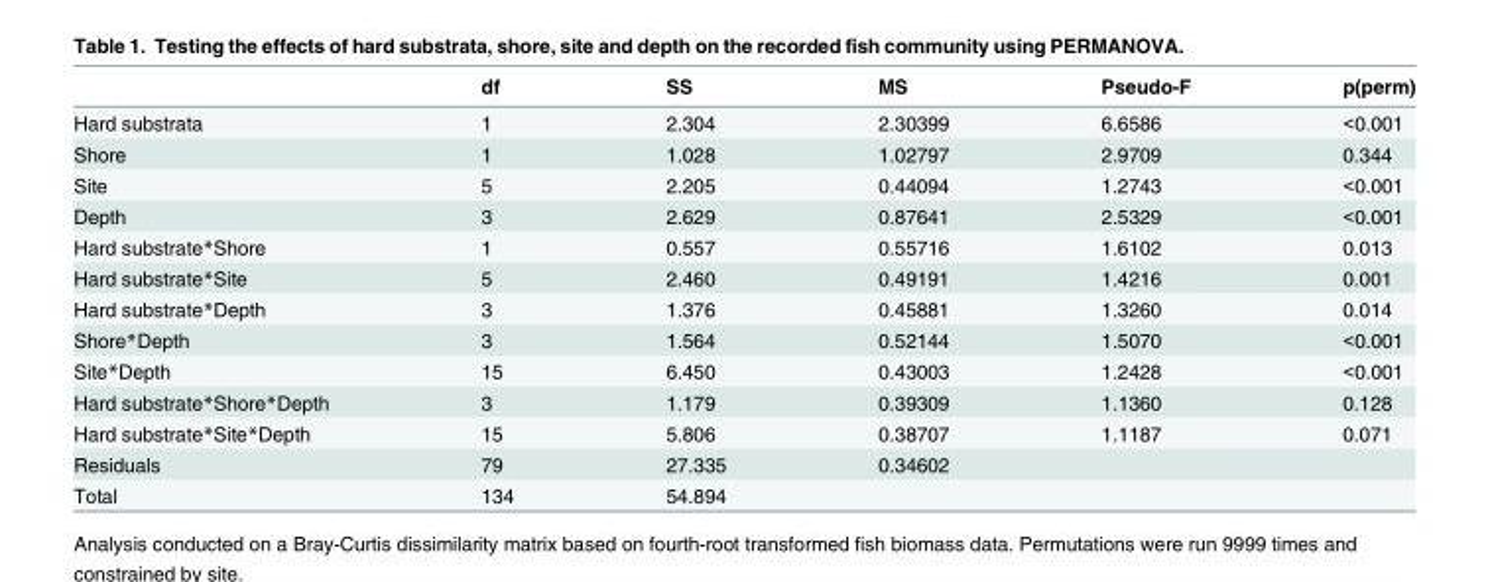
<table><thead><tr><td></td><td>df</td><td>SS</td><td>MS</td><td>Pseudo-F</td><td>p(perm)</td></tr></thead><tbody><tr><td>Hard substrata</td><td>1</td><td>2.304</td><td>2.30399</td><td>6.6586</td><td>&lt;0.001</td></tr><tr><td>Shore</td><td>1</td><td>1.028</td><td>1.02797</td><td>2.9709</td><td>0.344</td></tr><tr><td>Site</td><td>5</td><td>2.205</td><td>0.44094</td><td>1.2743</td><td>&lt;0.001</td></tr><tr><td>Depth</td><td>3</td><td>2.629</td><td>0.87641</td><td>2.5329</td><td>&lt;0.001</td></tr><tr><td>Hard substrate*Shore</td><td>1</td><td>0.557</td><td>0.55716</td><td>1.6102</td><td>0.013</td></tr><tr><td>Hard substrate*Site</td><td>5</td><td>2.460</td><td>0.49191</td><td>1.4216</td><td>0.001</td></tr><tr><td>Hard substrate*Depth</td><td>3</td><td>1.376</td><td>0.45881</td><td>1.3260</td><td>0.014</td></tr><tr><td>Shore*Depth</td><td>3</td><td>1.564</td><td>0.52144</td><td>1.5070</td><td>&lt;0.001</td></tr><tr><td>Site*Depth</td><td>15</td><td>6.450</td><td>0.43003</td><td>1.2428</td><td>&lt;0.001</td></tr><tr><td>Hard substrate*Shore*Depth</td><td>3</td><td>1.179</td><td>0.39309</td><td>1.1360</td><td>0.128</td></tr><tr><td>Hard substrate*Site*Depth</td><td>15</td><td>5.806</td><td>0.38707</td><td>1.1187</td><td>0.071</td></tr><tr><td>Residuals</td><td>79</td><td>27.335</td><td>0.34602</td><td></td><td></td></tr><tr><td>Total</td><td>134</td><td>54.894</td><td></td><td></td><td></td></tr></tbody></table>